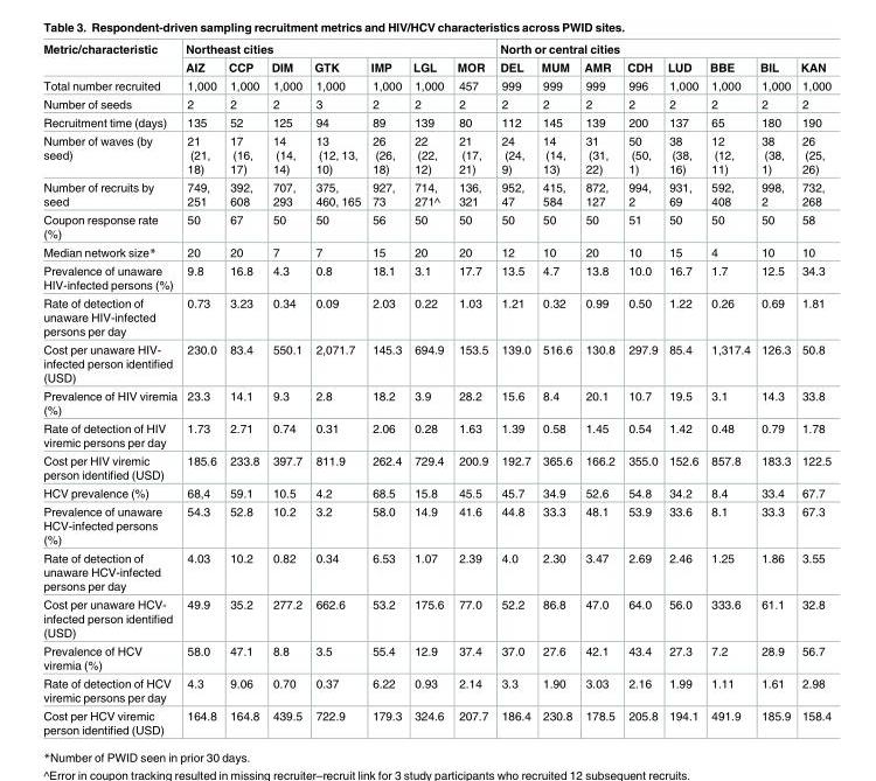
<table><thead><tr><td rowspan="2">Metric/characteristic</td><td colspan="7">Northeast cities</td><td colspan="8">North or central cities</td></tr><tr><td>AIZ</td><td>CCP</td><td>DIM</td><td>GTK</td><td>IMP</td><td>LGL</td><td>MOR</td><td>DEL</td><td>MUM</td><td>AMR</td><td>CDH</td><td>LUD</td><td>BBE</td><td>BIL</td><td>KAN</td></tr></thead><tbody><tr><td>Total number recruited</td><td>1,000</td><td>1,000</td><td>1,000</td><td>1,000</td><td>1,000</td><td>1,000</td><td>457</td><td>999</td><td>999</td><td>999</td><td>996</td><td>1,000</td><td>1,000</td><td>1,000</td><td>1,000</td></tr><tr><td>Number of seeds</td><td>2</td><td>2</td><td>2</td><td>3</td><td>2</td><td>2</td><td>2</td><td>2</td><td>2</td><td>2</td><td>2</td><td>2</td><td>2</td><td>2</td><td>2</td></tr><tr><td>Recruitment time (days)</td><td>135</td><td>52</td><td>125</td><td>94</td><td>89</td><td>139</td><td>80</td><td>112</td><td>145</td><td>139</td><td>200</td><td>137</td><td>65</td><td>180</td><td>190</td></tr><tr><td>Number of waves (by seed)</td><td>21 (21, 18)</td><td>17 (16, 17)</td><td>14 (14, 14)</td><td>13 (12, 13, 10)</td><td>26 (26, 18)</td><td>22 (22, 12)</td><td>21 (17, 21)</td><td>24 (24, 9)</td><td>14 (14, 13)</td><td>31 (31, 22)</td><td>50 (50, 1)</td><td>38 (38, 16)</td><td>12 (12, 11)</td><td>38 (38, 1)</td><td>26 (25, 26)</td></tr><tr><td>Number of recruits by seed</td><td>749, 251</td><td>392, 608</td><td>707, 293</td><td>375, 460, 165</td><td>927, 73</td><td>714, 271^</td><td>136, 321</td><td>952, 47</td><td>415, 584</td><td>872, 127</td><td>994, 2</td><td>931, 69</td><td>592, 408</td><td>998, 2</td><td>732, 268</td></tr><tr><td>Coupon response rate (%)</td><td>50</td><td>67</td><td>50</td><td>50</td><td>56</td><td>50</td><td>50</td><td>50</td><td>50</td><td>50</td><td>51</td><td>50</td><td>50</td><td>50</td><td>58</td></tr><tr><td>Median network size*</td><td>20</td><td>20</td><td>7</td><td>7</td><td>15</td><td>20</td><td>20</td><td>12</td><td>10</td><td>20</td><td>10</td><td>15</td><td>4</td><td>10</td><td>10</td></tr><tr><td>Prevalence of unaware HIV-infected persons (%)</td><td>9.8</td><td>16.8</td><td>4.3</td><td>0.8</td><td>18.1</td><td>3.1</td><td>17.7</td><td>13.5</td><td>4.7</td><td>13.8</td><td>10.0</td><td>16.7</td><td>1.7</td><td>12.5</td><td>34.3</td></tr><tr><td>Rate of detection of unaware HIV-infected persons per day</td><td>0.73</td><td>3.23</td><td>0.34</td><td>0.09</td><td>2.03</td><td>0.22</td><td>1.03</td><td>1.21</td><td>0.32</td><td>0.99</td><td>0.50</td><td>1.22</td><td>0.26</td><td>0.69</td><td>1.81</td></tr><tr><td>Cost per unaware HIV- infected person identified (USD)</td><td>230.0</td><td>83.4</td><td>550.1</td><td>2,071.7</td><td>145.3</td><td>694.9</td><td>153.5</td><td>139.0</td><td>516.6</td><td>130.8</td><td>297.9</td><td>85.4</td><td>1,317.4</td><td>126.3</td><td>50.8</td></tr><tr><td>Prevalence of HIV viremia (%)</td><td>23.3</td><td>14.1</td><td>9.3</td><td>2.8</td><td>18.2</td><td>3.9</td><td>28.2</td><td>15.6</td><td>8.4</td><td>20.1</td><td>10.7</td><td>19.5</td><td>3.1</td><td>14.3</td><td>33.8</td></tr><tr><td>Rate of detection of HIV viremic persons per day</td><td>1.73</td><td>2.71</td><td>0.74</td><td>0.31</td><td>2.06</td><td>0.28</td><td>1.63</td><td>1.39</td><td>0.58</td><td>1.45</td><td>0.54</td><td>1.42</td><td>0.48</td><td>0.79</td><td>1.78</td></tr><tr><td>Cost per HIV viremic person identified (USD)</td><td>185.6</td><td>233.8</td><td>397.7</td><td>811.9</td><td>262.4</td><td>729.4</td><td>200.9</td><td>192.7</td><td>365.6</td><td>166.2</td><td>355.0</td><td>152.6</td><td>857.8</td><td>183.3</td><td>122.5</td></tr><tr><td>HCV prevalence (%)</td><td>68,4</td><td>59.1</td><td>10.5</td><td>4.2</td><td>68.5</td><td>15.8</td><td>45.5</td><td>45.7</td><td>34.9</td><td>52.6</td><td>54.8</td><td>34.2</td><td>8.4</td><td>33.4</td><td>67.7</td></tr><tr><td>Prevalence of unaware HCV-infected persons (%)</td><td>54.3</td><td>52.8</td><td>10.2</td><td>3.2</td><td>58.0</td><td>14.9</td><td>41.6</td><td>44.8</td><td>33.3</td><td>48.1</td><td>53.9</td><td>33.6</td><td>8.1</td><td>33.3</td><td>67.3</td></tr><tr><td>Rate of detection of unaware HCV-infected persons per day</td><td>4.03</td><td>10.2</td><td>0.82</td><td>0.34</td><td>6.53</td><td>1.07</td><td>2.39</td><td>4.0</td><td>2.30</td><td>3.47</td><td>2.69</td><td>2.46</td><td>1.25</td><td>1.86</td><td>3.55</td></tr><tr><td>Cost per unaware HCV- infected person identified (USD)</td><td>49.9</td><td>35.2</td><td>277.2</td><td>662.6</td><td>53.2</td><td>175.6</td><td>77.0</td><td>52.2</td><td>86.8</td><td>47.0</td><td>64.0</td><td>56.0</td><td>333.6</td><td>61.1</td><td>32.8</td></tr><tr><td>Prevalence of HCV viremia (%)</td><td>58.0</td><td>47.1</td><td>8.8</td><td>3.5</td><td>55.4</td><td>12.9</td><td>37.4</td><td>37.0</td><td>27.6</td><td>42.1</td><td>43.4</td><td>27.3</td><td>7.2</td><td>28.9</td><td>56.7</td></tr><tr><td>Rate of detection of HCV viremic persons per day</td><td>4.3</td><td>9.06</td><td>0.70</td><td>0.37</td><td>6.22</td><td>0.93</td><td>2.14</td><td>3.3</td><td>1.90</td><td>3.03</td><td>2.16</td><td>1.99</td><td>1.11</td><td>1.61</td><td>2.98</td></tr><tr><td>Cost per HCV viremic person identified (USD)</td><td>164.8</td><td>164.8</td><td>439.5</td><td>722.9</td><td>179.3</td><td>324.6</td><td>207.7</td><td>186.4</td><td>230.8</td><td>178.5</td><td>205.8</td><td>194.1</td><td>491.9</td><td>185.9</td><td>158.4</td></tr></tbody></table>